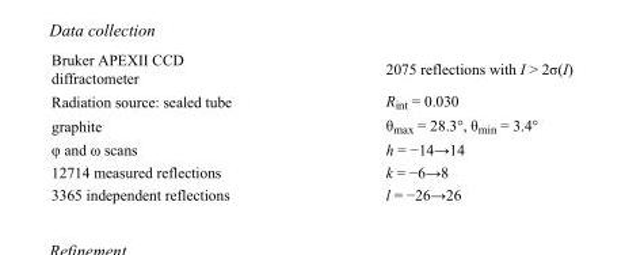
<table><tbody><tr><td>Bruker APEXII CCD diffractometer</td><td>2075 reflections with I &gt; 2σ(I)</td></tr><tr><td>Radiation source: sealed tube</td><td>R<sub>int</sub> = 0.030</td></tr><tr><td>graphite</td><td>θ<sub>max</sub> = 28.3°, θ<sub>min</sub> = 3.4°</td></tr><tr><td>φ and ω scans</td><td>h = −14→14</td></tr><tr><td>12714 measured reflections</td><td>k = −6→8</td></tr><tr><td>3365 independent reflections</td><td>l = −26→26</td></tr></tbody></table>